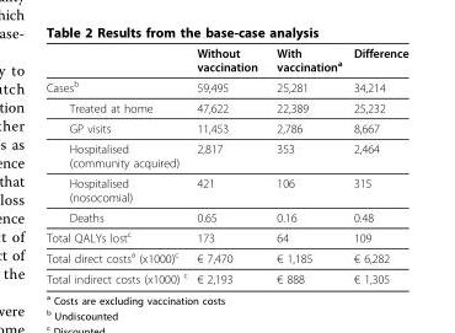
<table><thead><tr><td></td><td>Without vaccination</td><td>With vaccination<sup>a</sup></td><td>Difference</td></tr></thead><tbody><tr><td>Cases<sup>b</sup></td><td>59,495</td><td>25,281</td><td>34,214</td></tr><tr><td>Treated at home</td><td>47,622</td><td>22,389</td><td>25,232</td></tr><tr><td>GP visits</td><td>11,453</td><td>2,786</td><td>8,667</td></tr><tr><td>Hospitalised (community acquired)</td><td>2,817</td><td>353</td><td>2,464</td></tr><tr><td>Hospitalised (nosocomial)</td><td>421</td><td>106</td><td>315</td></tr><tr><td>Deaths</td><td>0.65</td><td>0.16</td><td>0.48</td></tr><tr><td>Total QALYs lost<sup>c</sup></td><td>173</td><td>64</td><td>109</td></tr><tr><td>Total direct costs<sup>a</sup> (x1000)<sup>c</sup></td><td>€ 7,470</td><td>€ 1,185</td><td>€ 6,282</td></tr><tr><td>Total indirect costs (x1000) <sup>c</sup></td><td>€ 2,193</td><td>€ 888</td><td>€ 1,305</td></tr></tbody></table>